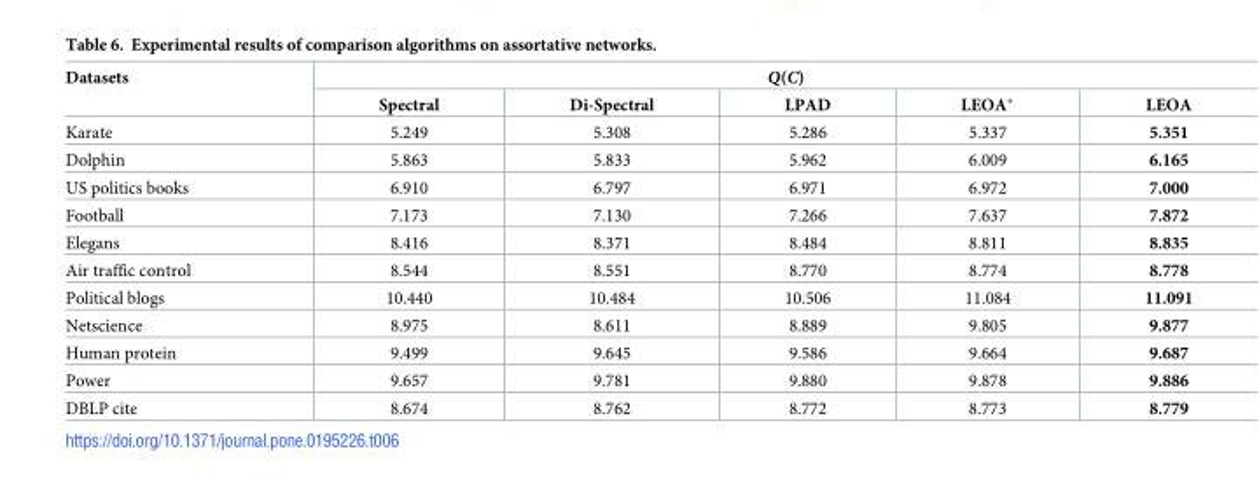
<table><thead><tr><td rowspan="2">Datasets</td><td colspan="5">Q(C)</td></tr><tr><td>Spectral</td><td>Di-Spectral</td><td>LPAD</td><td>LEOA*</td><td>LEOA</td></tr></thead><tbody><tr><td>Karate</td><td>5.249</td><td>5.308</td><td>5.286</td><td>5.337</td><td>5.351</td></tr><tr><td>Dolphin</td><td>5.863</td><td>5.833</td><td>5.962</td><td>6.009</td><td>6.165</td></tr><tr><td>US politics books</td><td>6.910</td><td>6.797</td><td>6.971</td><td>6.972</td><td>7.000</td></tr><tr><td>Football</td><td>7.173</td><td>7.130</td><td>7.266</td><td>7.637</td><td>7.872</td></tr><tr><td>Elegans</td><td>8.416</td><td>8.371</td><td>8.484</td><td>8.811</td><td>8.835</td></tr><tr><td>Air traffic control</td><td>8.544</td><td>8.551</td><td>8.770</td><td>8.774</td><td>8.778</td></tr><tr><td>Political blogs</td><td>10.440</td><td>10.484</td><td>10.506</td><td>11.084</td><td>11.091</td></tr><tr><td>Netscience</td><td>8.975</td><td>8.611</td><td>8.889</td><td>9.805</td><td>9.877</td></tr><tr><td>Human protein</td><td>9.499</td><td>9.645</td><td>9.586</td><td>9.664</td><td>9.687</td></tr><tr><td>Power</td><td>9.657</td><td>9.781</td><td>9.880</td><td>9.878</td><td>9.886</td></tr><tr><td>DBLP cite</td><td>8.674</td><td>8.762</td><td>8.772</td><td>8.773</td><td>8.779</td></tr></tbody></table>